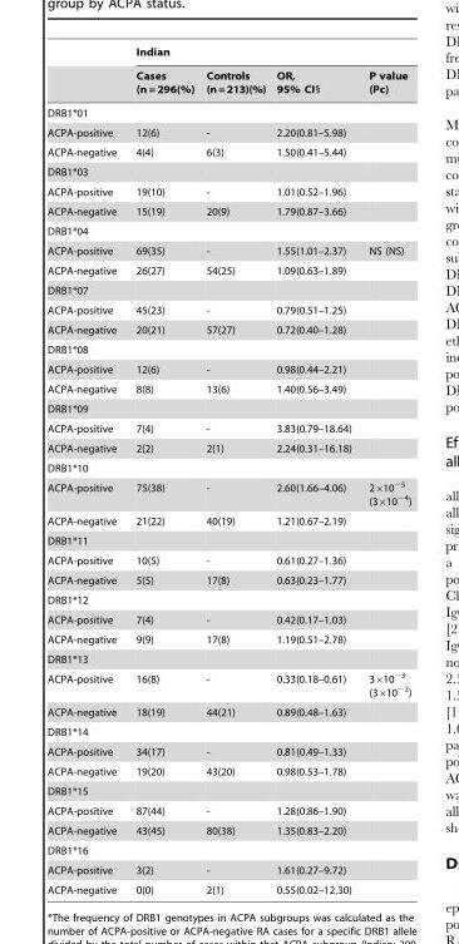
<table><thead><tr><td rowspan="2"></td><td colspan="4">Indian</td></tr><tr><td>Cases (n = 296(%)</td><td>Controls (n=213)(%)</td><td>OR, 95% CI§</td><td>P value (Pc)</td></tr></thead><tbody><tr><td colspan="5">DRB1*01</td></tr><tr><td>ACPA-positive</td><td>12(6)</td><td>-</td><td>2.20(0.81–5.98)</td><td></td></tr><tr><td>ACPA-negative</td><td>4(4)</td><td>6(3)</td><td>1.50(0.41–5.44)</td><td></td></tr><tr><td colspan="5">DRB1*03</td></tr><tr><td>ACPA-positive</td><td>19(10)</td><td>-</td><td>1.01(0.52–1.96)</td><td></td></tr><tr><td>ACPA-negative</td><td>15(19)</td><td>20(9)</td><td>1.79(0.87–3.66)</td><td></td></tr><tr><td colspan="5">DRB1*04</td></tr><tr><td>ACPA-positive</td><td>69(35)</td><td>-</td><td>1.55(1.01–2.37)</td><td>NS (NS)</td></tr><tr><td>ACPA-negative</td><td>26(27)</td><td>54(25)</td><td>1.09(0.63–1.89)</td><td></td></tr><tr><td colspan="5">DRB1*07</td></tr><tr><td>ACPA-positive</td><td>45(23)</td><td>-</td><td>0.79(0.51–1.25)</td><td></td></tr><tr><td>ACPA-negative</td><td>20(21)</td><td>57(27)</td><td>0.72(0.40–1.28)</td><td></td></tr><tr><td colspan="5">DRB1*08</td></tr><tr><td>ACPA-positive</td><td>12(6)</td><td>-</td><td>0.98(0.44–2.21)</td><td></td></tr><tr><td>ACPA-negative</td><td>8(8)</td><td>13(6)</td><td>1.40(0.56–3.49)</td><td></td></tr><tr><td colspan="5">DRB1*09</td></tr><tr><td>ACPA-positive</td><td>7(4)</td><td>-</td><td>3.83(0.79–18.64)</td><td></td></tr><tr><td>ACPA-negative</td><td>2(2)</td><td>2(1)</td><td>2.24(0.31–16.18)</td><td></td></tr><tr><td colspan="5">DRB1*10</td></tr><tr><td>ACPA-positive</td><td>75(38)</td><td>-</td><td>2.60(1.66–4.06)</td><td>2×10<sup>−5</sup> (3×10<sup>−4</sup>)</td></tr><tr><td>ACPA-negative</td><td>21(22)</td><td>40(19)</td><td>1.21(0.67–2.19)</td><td></td></tr><tr><td colspan="5">DRB1*11</td></tr><tr><td>ACPA-positive</td><td>10(5)</td><td>-</td><td>0.61(0.27–1.36)</td><td></td></tr><tr><td>ACPA-negative</td><td>5(5)</td><td>17(8)</td><td>0.63(0.23–1.77)</td><td></td></tr><tr><td colspan="5">DRB1*12</td></tr><tr><td>ACPA-positive</td><td>7(4)</td><td>-</td><td>0.42(0.17–1.03)</td><td></td></tr><tr><td>ACPA-negative</td><td>9(9)</td><td>17(8)</td><td>1.19(0.51–2.78)</td><td></td></tr><tr><td colspan="5">DRB1*13</td></tr><tr><td>ACPA-positive</td><td>16(8)</td><td>-</td><td>0.33(0.18–0.61)</td><td>3×10<sup>−3</sup> (3×10<sup>−2</sup>)</td></tr><tr><td>ACPA-negative</td><td>18(19)</td><td>44(21)</td><td>0.89(0.48–1.63)</td><td></td></tr><tr><td colspan="5">DRB1*14</td></tr><tr><td>ACPA-positive</td><td>34(17)</td><td>-</td><td>0.81(0.49–1.33)</td><td></td></tr><tr><td>ACPA-negative</td><td>19(20)</td><td>43(20)</td><td>0.98(0.53–1.78)</td><td></td></tr><tr><td colspan="5">DRB1*15</td></tr><tr><td>ACPA-positive</td><td>87(44)</td><td>-</td><td>1.28(0.86–1.90)</td><td></td></tr><tr><td>ACPA-negative</td><td>43(45)</td><td>80(38)</td><td>1.35(0.83–2.20)</td><td></td></tr><tr><td colspan="5">DRB1*16</td></tr><tr><td>ACPA-positive</td><td>3(2)</td><td>-</td><td>1.61(0.27–9.72)</td><td></td></tr><tr><td>ACPA-negative</td><td>0(0)</td><td>2(1)</td><td>0.55(0.02–12.30)</td><td></td></tr></tbody></table>